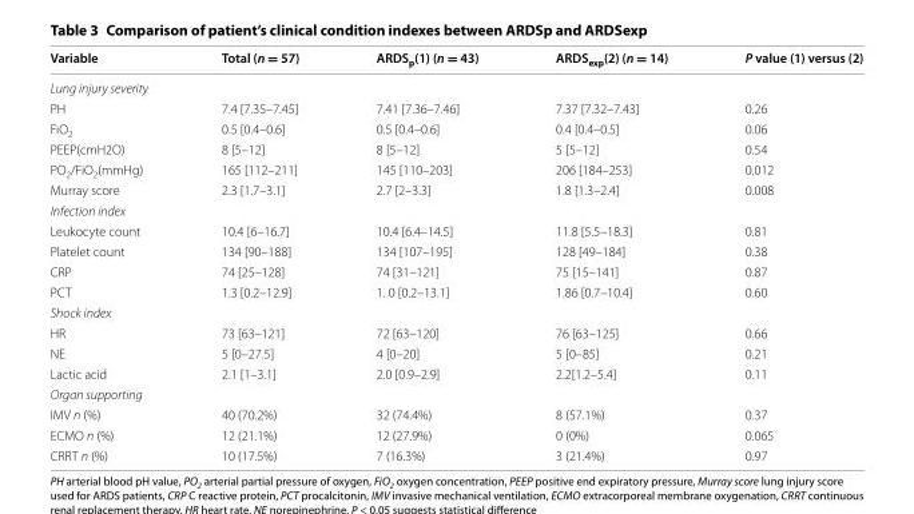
<table><thead><tr><td>Variable</td><td>Total (n = 57)</td><td>ARDS<sub>p</sub>(1) (n = 43)</td><td>ARDS<sub>exp</sub>(2) (n = 14)</td><td>P value (1) versus (2)</td></tr></thead><tbody><tr><td colspan="5">Lung injury severity</td></tr><tr><td>PH</td><td>7.4 [7.35–7.45]</td><td>7.41 [7.36–7.46]</td><td>7.37 [7.32–7.43]</td><td>0.26</td></tr><tr><td>FiO<sub>2</sub></td><td>0.5 [0.4–0.6]</td><td>0.5 [0.4–0.6]</td><td>0.4 [0.4–0.5]</td><td>0.06</td></tr><tr><td>PEEP(cmH2O)</td><td>8 [5–12]</td><td>8 [5–12]</td><td>5 [5–12]</td><td>0.54</td></tr><tr><td>PO<sub>2</sub>/FiO<sub>2</sub>(mmHg)</td><td>165 [112–211]</td><td>145 [110–203]</td><td>206 [184–253]</td><td>0.012</td></tr><tr><td>Murray score</td><td>2.3 [1.7–3.1]</td><td>2.7 [2–3.3]</td><td>1.8 [1.3–2.4]</td><td>0.008</td></tr><tr><td colspan="5">Infection index</td></tr><tr><td>Leukocyte count</td><td>10.4 [6–16.7]</td><td>10.4 [6.4–14.5]</td><td>11.8 [5.5–18.3]</td><td>0.81</td></tr><tr><td>Platelet count</td><td>134 [90–188]</td><td>134 [107–195]</td><td>128 [49–184]</td><td>0.38</td></tr><tr><td>CRP</td><td>74 [25–128]</td><td>74 [31–121]</td><td>75 [15–141]</td><td>0.87</td></tr><tr><td>PCT</td><td>1.3 [0.2–12.9]</td><td>1. 0 [0.2–13.1]</td><td>1.86 [0.7–10.4]</td><td>0.60</td></tr><tr><td colspan="5">Shock index</td></tr><tr><td>HR</td><td>73 [63–121]</td><td>72 [63–120]</td><td>76 [63–125]</td><td>0.66</td></tr><tr><td>NE</td><td>5 [0–27.5]</td><td>4 [0–20]</td><td>5 [0–85]</td><td>0.21</td></tr><tr><td>Lactic acid</td><td>2.1 [1–3.1]</td><td>2.0 [0.9–2.9]</td><td>2.2[1.2–5.4]</td><td>0.11</td></tr><tr><td colspan="5">Organ supporting</td></tr><tr><td>IMV n (%)</td><td>40 (70.2%)</td><td>32 (74.4%)</td><td>8 (57.1%)</td><td>0.37</td></tr><tr><td>ECMO n (%)</td><td>12 (21.1%)</td><td>12 (27.9%)</td><td>0 (0%)</td><td>0.065</td></tr><tr><td>CRRT n (%)</td><td>10 (17.5%)</td><td>7 (16.3%)</td><td>3 (21.4%)</td><td>0.97</td></tr></tbody></table>